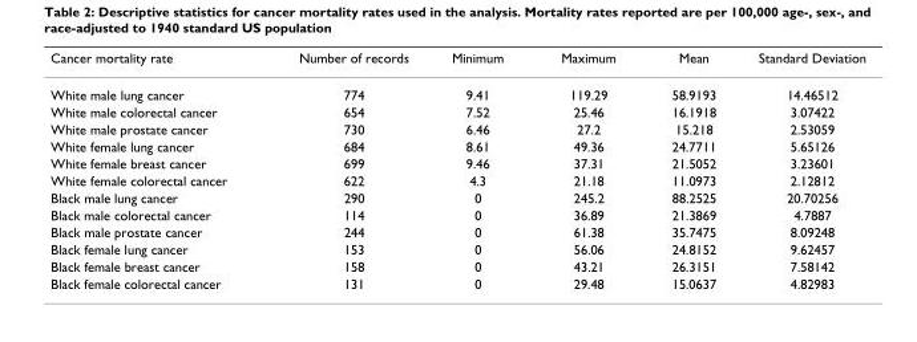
<table><thead><tr><td>Cancer mortality rate</td><td>Number of records</td><td>Minimum</td><td>Maximum</td><td>Mean</td><td>Standard Deviation</td></tr></thead><tbody><tr><td>White male lung cancer</td><td>774</td><td>9.41</td><td>119.29</td><td>58.9193</td><td>14.46512</td></tr><tr><td>White male colorectal cancer</td><td>654</td><td>7.52</td><td>25.46</td><td>16.1918</td><td>3.07422</td></tr><tr><td>White male prostate cancer</td><td>730</td><td>6.46</td><td>27.2</td><td>15.218</td><td>2.53059</td></tr><tr><td>White female lung cancer</td><td>684</td><td>8.61</td><td>49.36</td><td>24.7711</td><td>5.65126</td></tr><tr><td>White female breast cancer</td><td>699</td><td>9.46</td><td>37.31</td><td>21.5052</td><td>3.23601</td></tr><tr><td>White female colorectal cancer</td><td>622</td><td>4.3</td><td>21.18</td><td>11.0973</td><td>2.12812</td></tr><tr><td>Black male lung cancer</td><td>290</td><td>0</td><td>245.2</td><td>88.2525</td><td>20.70256</td></tr><tr><td>Black male colorectal cancer</td><td>114</td><td>0</td><td>36.89</td><td>21.3869</td><td>4.7887</td></tr><tr><td>Black male prostate cancer</td><td>244</td><td>0</td><td>61.38</td><td>35.7475</td><td>8.09248</td></tr><tr><td>Black female lung cancer</td><td>153</td><td>0</td><td>56.06</td><td>24.8152</td><td>9.62457</td></tr><tr><td>Black female breast cancer</td><td>158</td><td>0</td><td>43.21</td><td>26.3151</td><td>7.58142</td></tr><tr><td>Black female colorectal cancer</td><td>131</td><td>0</td><td>29.48</td><td>15.0637</td><td>4.82983</td></tr></tbody></table>